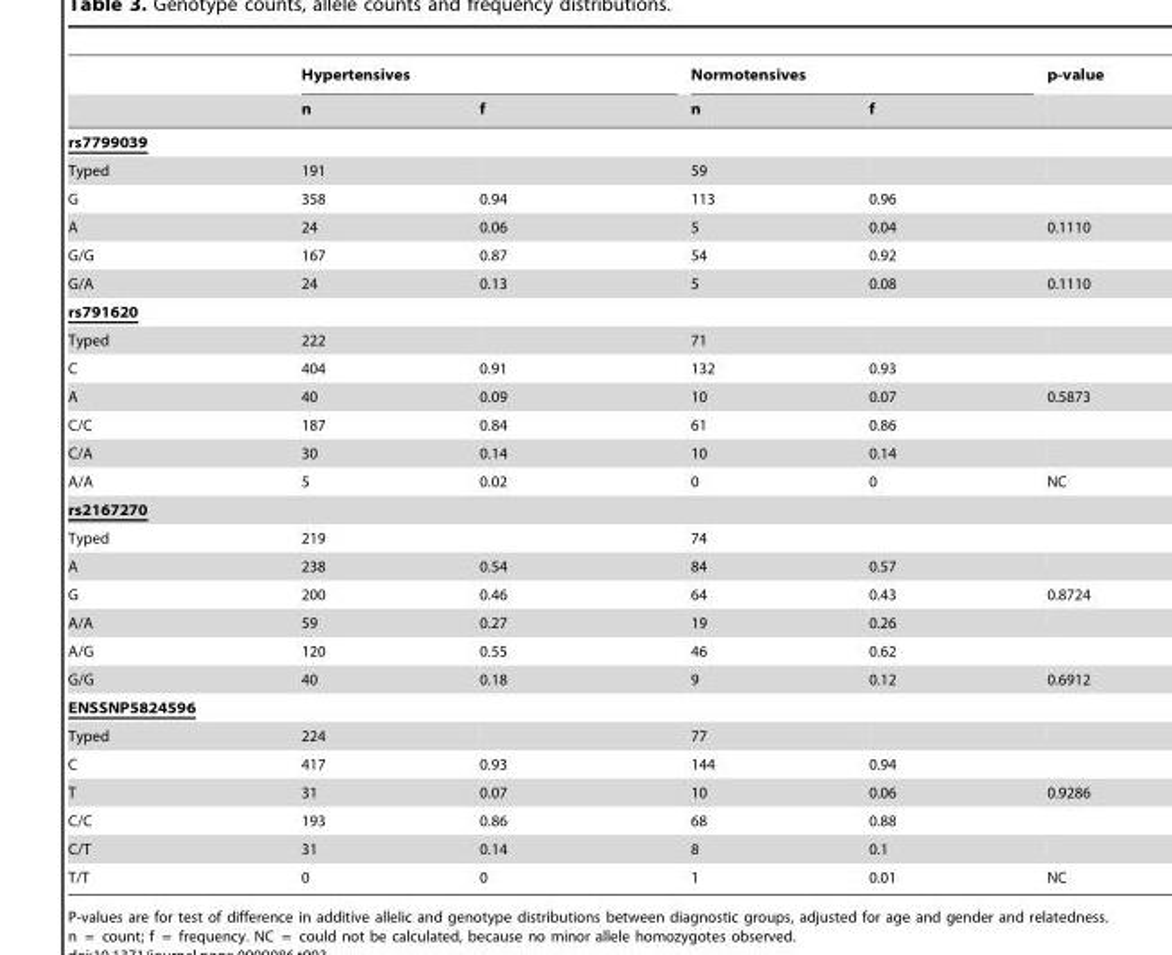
<table><thead><tr><td rowspan="2"></td><td colspan="2">Hypertensives</td><td colspan="2">Normotensives</td><td rowspan="2">p-value</td></tr><tr><td>n</td><td>f</td><td>n</td><td>f</td></tr></thead><tbody><tr><td colspan="6">rs7799039</td></tr><tr><td>Typed</td><td>191</td><td></td><td>59</td><td></td><td></td></tr><tr><td>G</td><td>358</td><td>0.94</td><td>113</td><td>0.96</td><td></td></tr><tr><td>A</td><td>24</td><td>0.06</td><td>5</td><td>0.04</td><td>0.1110</td></tr><tr><td>G/G</td><td>167</td><td>0.87</td><td>54</td><td>0.92</td><td></td></tr><tr><td>G/A</td><td>24</td><td>0.13</td><td>5</td><td>0.08</td><td>0.1110</td></tr><tr><td colspan="6">rs791620</td></tr><tr><td>Typed</td><td>222</td><td></td><td>71</td><td></td><td></td></tr><tr><td>C</td><td>404</td><td>0.91</td><td>132</td><td>0.93</td><td></td></tr><tr><td>A</td><td>40</td><td>0.09</td><td>10</td><td>0.07</td><td>0.5873</td></tr><tr><td>C/C</td><td>187</td><td>0.84</td><td>61</td><td>0.86</td><td></td></tr><tr><td>C/A</td><td>30</td><td>0.14</td><td>10</td><td>0.14</td><td></td></tr><tr><td>A/A</td><td>5</td><td>0.02</td><td>0</td><td>0</td><td>NC</td></tr><tr><td colspan="6">rs2167270</td></tr><tr><td>Typed</td><td>219</td><td></td><td>74</td><td></td><td></td></tr><tr><td>A</td><td>238</td><td>0.54</td><td>84</td><td>0.57</td><td></td></tr><tr><td>G</td><td>200</td><td>0.46</td><td>64</td><td>0.43</td><td>0.8724</td></tr><tr><td>A/A</td><td>59</td><td>0.27</td><td>19</td><td>0.26</td><td></td></tr><tr><td>A/G</td><td>120</td><td>0.55</td><td>46</td><td>0.62</td><td></td></tr><tr><td>G/G</td><td>40</td><td>0.18</td><td>9</td><td>0.12</td><td>0.6912</td></tr><tr><td colspan="6">ENSSNP5824596</td></tr><tr><td>Typed</td><td>224</td><td></td><td>77</td><td></td><td></td></tr><tr><td>C</td><td>417</td><td>0.93</td><td>144</td><td>0.94</td><td></td></tr><tr><td>T</td><td>31</td><td>0.07</td><td>10</td><td>0.06</td><td>0.9286</td></tr><tr><td>C/C</td><td>193</td><td>0.86</td><td>68</td><td>0.88</td><td></td></tr><tr><td>C/T</td><td>31</td><td>0.14</td><td>8</td><td>0.1</td><td></td></tr><tr><td>T/T</td><td>0</td><td>0</td><td>1</td><td>0.01</td><td>NC</td></tr></tbody></table>